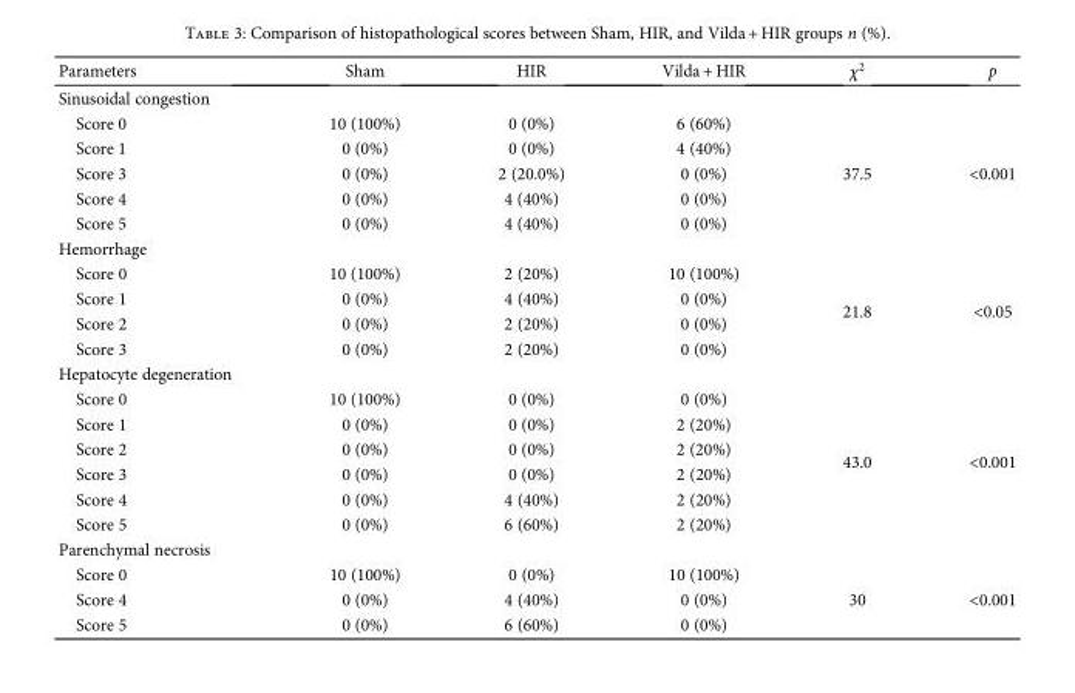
<table><thead><tr><td>Parameters</td><td>Sham</td><td>HIR</td><td>Vilda + HIR</td><td>χ<sup>2</sup></td><td>p</td></tr></thead><tbody><tr><td colspan="6">Sinusoidal congestion</td></tr><tr><td>Score 0</td><td>10 (100%)</td><td>0 (0%)</td><td>6 (60%)</td><td rowspan="5">37.5</td><td rowspan="5">&lt;0.001</td></tr><tr><td>Score 1</td><td>0 (0%)</td><td>0 (0%)</td><td>4 (40%)</td></tr><tr><td>Score 3</td><td>0 (0%)</td><td>2 (20.0%)</td><td>0 (0%)</td></tr><tr><td>Score 4</td><td>0 (0%)</td><td>4 (40%)</td><td>0 (0%)</td></tr><tr><td>Score 5</td><td>0 (0%)</td><td>4 (40%)</td><td>0 (0%)</td></tr><tr><td colspan="6">Hemorrhage</td></tr><tr><td>Score 0</td><td>10 (100%)</td><td>2 (20%)</td><td>10 (100%)</td><td rowspan="4">21.8</td><td rowspan="4">&lt;0.05</td></tr><tr><td>Score 1</td><td>0 (0%)</td><td>4 (40%)</td><td>0 (0%)</td></tr><tr><td>Score 2</td><td>0 (0%)</td><td>2 (20%)</td><td>0 (0%)</td></tr><tr><td>Score 3</td><td>0 (0%)</td><td>2 (20%)</td><td>0 (0%)</td></tr><tr><td colspan="6">Hepatocyte degeneration</td></tr><tr><td>Score 0</td><td>10 (100%)</td><td>0 (0%)</td><td>0 (0%)</td><td rowspan="6">43.0</td><td rowspan="6">&lt;0.001</td></tr><tr><td>Score 1</td><td>0 (0%)</td><td>0 (0%)</td><td>2 (20%)</td></tr><tr><td>Score 2</td><td>0 (0%)</td><td>0 (0%)</td><td>2 (20%)</td></tr><tr><td>Score 3</td><td>0 (0%)</td><td>0 (0%)</td><td>2 (20%)</td></tr><tr><td>Score 4</td><td>0 (0%)</td><td>4 (40%)</td><td>2 (20%)</td></tr><tr><td>Score 5</td><td>0 (0%)</td><td>6 (60%)</td><td>2 (20%)</td></tr><tr><td colspan="6">Parenchymal necrosis</td></tr><tr><td>Score 0</td><td>10 (100%)</td><td>0 (0%)</td><td>10 (100%)</td><td rowspan="3">30</td><td rowspan="3">&lt;0.001</td></tr><tr><td>Score 4</td><td>0 (0%)</td><td>4 (40%)</td><td>0 (0%)</td></tr><tr><td>Score 5</td><td>0 (0%)</td><td>6 (60%)</td><td>0 (0%)</td></tr></tbody></table>